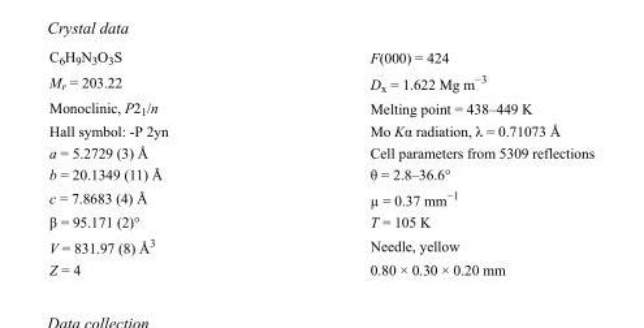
<table><tbody><tr><td>C<sub>6</sub>H<sub>9</sub>N<sub>3</sub>O<sub>3</sub>S</td><td>F(000) = 424</td></tr><tr><td>M<sub>r</sub> = 203.22</td><td>D<sub>x</sub> = 1.622 Mg m<sup>−3</sup></td></tr><tr><td>Monoclinic, P2<sub>1</sub>/n</td><td>Melting point = 438–449 K</td></tr><tr><td>Hall symbol: -P 2yn</td><td>Mo Kα radiation, λ = 0.71073 Å</td></tr><tr><td>a = 5.2729 (3) Å</td><td>Cell parameters from 5309 reflections</td></tr><tr><td>b = 20.1349 (11) Å</td><td>θ = 2.8–36.6°</td></tr><tr><td>c = 7.8683 (4) Å</td><td>µ = 0.37 mm<sup>−1</sup></td></tr><tr><td>β = 95.171 (2)°</td><td>T = 105 K</td></tr><tr><td>V = 831.97 (8) Å<sup>3</sup></td><td>Needle, yellow</td></tr><tr><td>Z = 4</td><td>0.80 × 0.30 × 0.20 mm</td></tr></tbody></table>